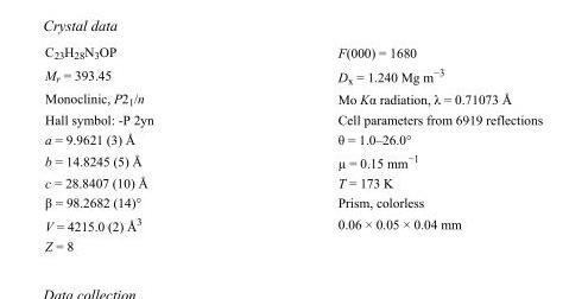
<table><tbody><tr><td>C<sub>23</sub>H<sub>28</sub>N<sub>3</sub>OP</td><td>F(000) = 1680</td></tr><tr><td>M<sub>r</sub> = 393.45</td><td>D<sub>x</sub> = 1.240 Mg m<sup>−3</sup></td></tr><tr><td>Monoclinic, P2<sub>1</sub>/n</td><td>Mo Kα radiation, λ = 0.71073 Å</td></tr><tr><td>Hall symbol: -P 2yn</td><td>Cell parameters from 6919 reflections</td></tr><tr><td>a = 9.9621 (3) Å</td><td>θ = 1.0–26.0°</td></tr><tr><td>b = 14.8245 (5) Å</td><td>µ = 0.15 mm<sup>−1</sup></td></tr><tr><td>c = 28.8407 (10) Å</td><td>T = 173 K</td></tr><tr><td>β = 98.2682 (14)°</td><td>Prism, colorless</td></tr><tr><td>V = 4215.0 (2) Å<sup>3</sup></td><td>0.06 × 0.05 × 0.04 mm</td></tr><tr><td>Z = 8</td><td></td></tr></tbody></table>